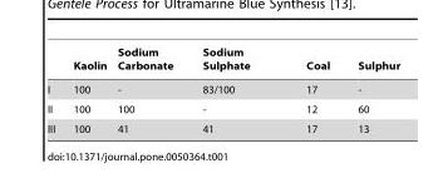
<table><thead><tr><td></td><td>Kaolin</td><td>Sodium Carbonate</td><td>Sodium Sulphate</td><td>Coal</td><td>Sulphur</td></tr></thead><tbody><tr><td>I</td><td>100</td><td>-</td><td>83/100</td><td>17</td><td>-</td></tr><tr><td>II</td><td>100</td><td>100</td><td>-</td><td>12</td><td>60</td></tr><tr><td>III</td><td>100</td><td>41</td><td>41</td><td>17</td><td>13</td></tr></tbody></table>